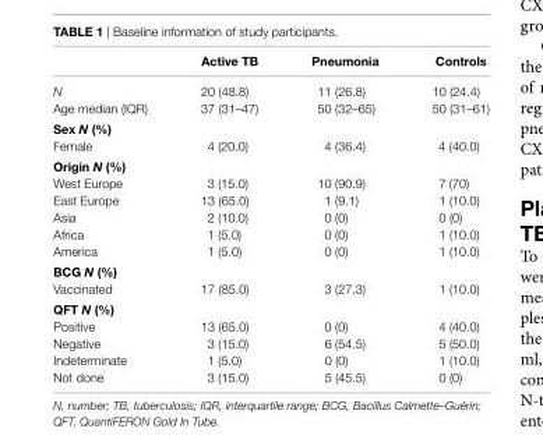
<table><thead><tr><td></td><td>active TB</td><td>Pneumonia</td><td>controls</td></tr></thead><tbody><tr><td>N</td><td>20 (48.8)</td><td>11 (26.8)</td><td>10 (24.4)</td></tr><tr><td>Age median (IQR)</td><td>37 (31–47)</td><td>50 (32–65)</td><td>50 (31–61)</td></tr><tr><td colspan="4">sex N (%)</td></tr><tr><td>Female</td><td>4 (20.0)</td><td>4 (36.4)</td><td>4 (40.0)</td></tr><tr><td colspan="4">Origin N (%)</td></tr><tr><td>West Europe</td><td>3 (15.0)</td><td>10 (90.9)</td><td>7 (70)</td></tr><tr><td>East Europe</td><td>13 (65.0)</td><td>1 (9.1)</td><td>1 (10.0)</td></tr><tr><td>Asia</td><td>2 (10.0)</td><td>0 (0)</td><td>0 (0)</td></tr><tr><td>Africa</td><td>1 (5.0)</td><td>0 (0)</td><td>1 (10.0)</td></tr><tr><td>America</td><td>1 (5.0)</td><td>0 (0)</td><td>1 (10.0)</td></tr><tr><td colspan="4">Bcg N (%)</td></tr><tr><td>Vaccinated</td><td>17 (85.0)</td><td>3 (27.3)</td><td>1 (10.0)</td></tr><tr><td colspan="4">QFT N (%)</td></tr><tr><td>Positive</td><td>13 (65.0)</td><td>0 (0)</td><td>4 (40.0)</td></tr><tr><td>Negative</td><td>3 (15.0)</td><td>6 (54.5)</td><td>5 (50.0)</td></tr><tr><td>Indeterminate</td><td>1 (5.0)</td><td>0 (0)</td><td>1 (10.0)</td></tr><tr><td>Not done</td><td>3 (15.0)</td><td>5 (45.5)</td><td>0 (0)</td></tr></tbody></table>